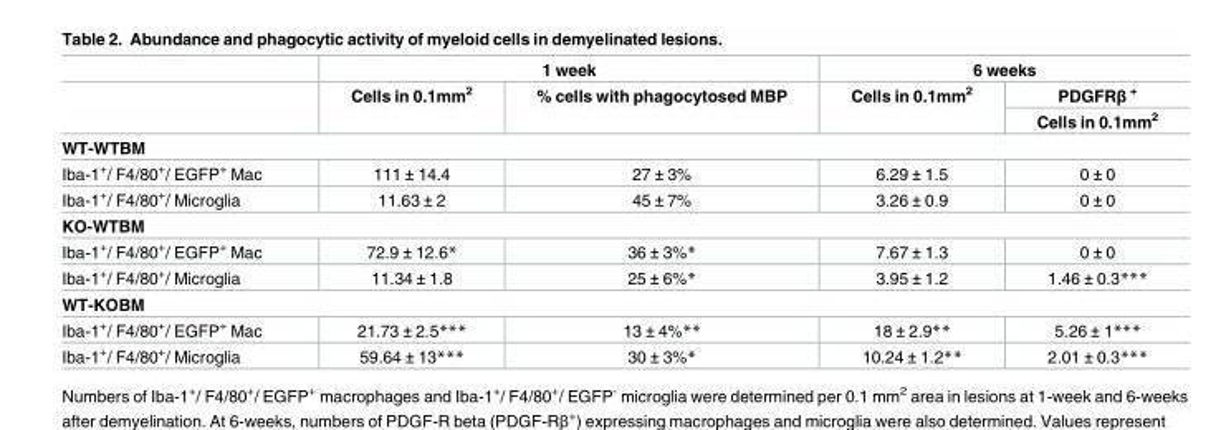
<table><thead><tr><td rowspan="3"></td><td colspan="2">1 week</td><td colspan="2">6 weeks</td></tr><tr><td rowspan="2">Cells in 0.1mm<sup>2</sup></td><td rowspan="2">% cells with phagocytosed MBP</td><td rowspan="2">Cells in 0.1mm<sup>2</sup></td><td rowspan="2">PDGFRβ <sup>+</sup> Cells in 0.1mm<sup>2</sup></td></tr><tr></tr></thead><tbody><tr><td colspan="5">WT-WTBM</td></tr><tr><td>Iba-1<sup>+</sup>/ F4/80<sup>+</sup>/ EGFP<sup>+</sup> Mac</td><td>111 ± 14.4</td><td>27 ± 3%</td><td>6.29 ± 1.5</td><td>0 ± 0</td></tr><tr><td>Iba-1<sup>+</sup>/ F4/80<sup>+</sup>/ Microglia</td><td>11.63 ± 2</td><td>45 ± 7%</td><td>3.26 ± 0.9</td><td>0 ± 0</td></tr><tr><td colspan="5">KO-WTBM</td></tr><tr><td>Iba-1<sup>+</sup>/ F4/80<sup>+</sup>/ EGFP<sup>+</sup> Mac</td><td>72.9 ± 12.6*</td><td>36 ± 3%*</td><td>7.67 ± 1.3</td><td>0 ± 0</td></tr><tr><td>Iba-1<sup>+</sup>/ F4/80<sup>+</sup>/ Microglia</td><td>11.34 ± 1.8</td><td>25 ± 6%*</td><td>3.95 ± 1.2</td><td>1.46 ± 0.3***</td></tr><tr><td colspan="5">WT-KOBM</td></tr><tr><td>Iba-1<sup>+</sup>/ F4/80<sup>+</sup>/ EGFP<sup>+</sup> Mac</td><td>21.73 ± 2.5***</td><td>13 ± 4%**</td><td>18 ± 2.9**</td><td>5.26 ± 1***</td></tr><tr><td>Iba-1<sup>+</sup>/ F4/80<sup>+</sup>/ Microglia</td><td>59.64 ± 13***</td><td>30 ± 3%*</td><td>10.24 ± 1.2**</td><td>2.01 ± 0.3***</td></tr></tbody></table>